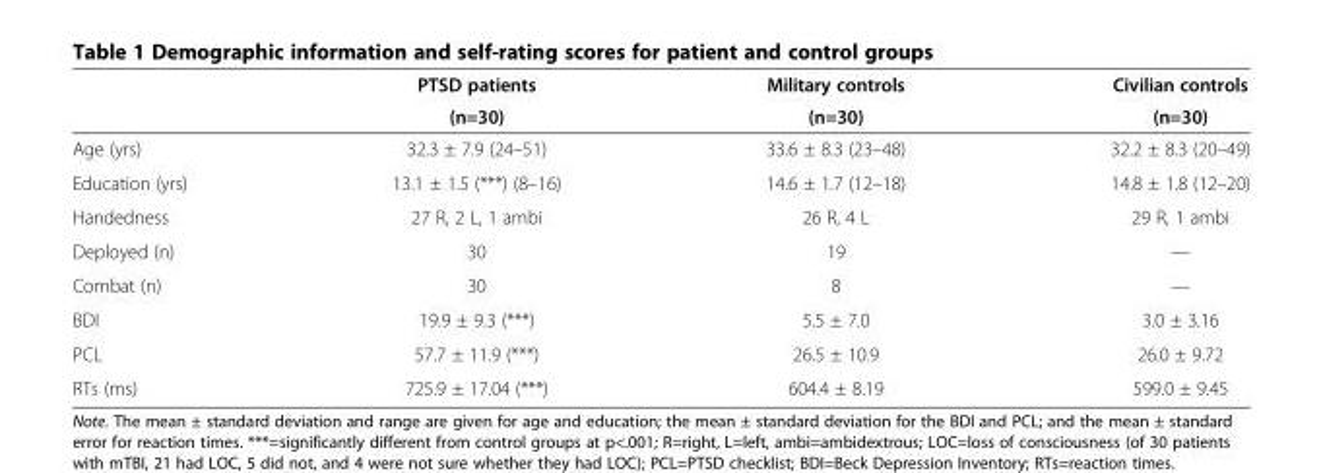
<table><thead><tr><td rowspan="2"></td><td rowspan="2">PTSD patients (n=30)</td><td rowspan="2">Military controls (n=30)</td><td rowspan="2">Civilian controls (n=30)</td></tr><tr></tr></thead><tbody><tr><td>Age (yrs)</td><td>32.3 ± 7.9 (24–51)</td><td>33.6 ± 8.3 (23–48)</td><td>32.2 ± 8.3 (20–49)</td></tr><tr><td>Education (yrs)</td><td>13.1 ± 1.5 (***) (8–16)</td><td>14.6 ± 1.7 (12–18)</td><td>14.8 ± 1.8 (12–20)</td></tr><tr><td>Handedness</td><td>27 R, 2 L, 1 ambi</td><td>26 R, 4 L</td><td>29 R, 1 ambi</td></tr><tr><td>Deployed (n)</td><td>30</td><td>19</td><td>—</td></tr><tr><td>Combat (n)</td><td>30</td><td>8</td><td>—</td></tr><tr><td>BDI</td><td>19.9 ± 9.3 (***)</td><td>5.5 ± 7.0</td><td>3.0 ± 3.16</td></tr><tr><td>PCL</td><td>57.7 ± 11.9 (***)</td><td>26.5 ± 10.9</td><td>26.0 ± 9.72</td></tr><tr><td>RTs (ms)</td><td>725.9 ± 17.04 (***)</td><td>604.4 ± 8.19</td><td>599.0 ± 9.45</td></tr></tbody></table>